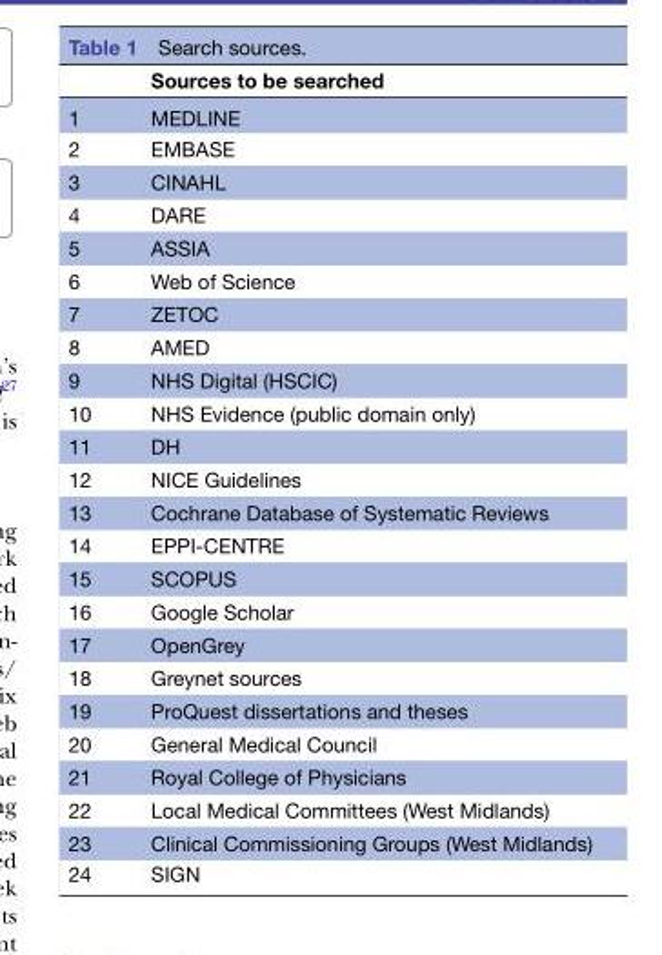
<table><thead><tr><td></td><td>Sources to be searched</td></tr></thead><tbody><tr><td>1</td><td>MEDLINE</td></tr><tr><td>2</td><td>EMBASE</td></tr><tr><td>3</td><td>CINAHL</td></tr><tr><td>4</td><td>DARE</td></tr><tr><td>5</td><td>ASSIA</td></tr><tr><td>6</td><td>Web of Science</td></tr><tr><td>7</td><td>ZETOC</td></tr><tr><td>8</td><td>AMED</td></tr><tr><td>9</td><td>NHS Digital (HSCIC)</td></tr><tr><td>10</td><td>NHS Evidence (public domain only)</td></tr><tr><td>11</td><td>DH</td></tr><tr><td>12</td><td>NICE Guidelines</td></tr><tr><td>13</td><td>Cochrane Database of Systematic Reviews</td></tr><tr><td>14</td><td>EPPI-CENTRE</td></tr><tr><td>15</td><td>SCOPUS</td></tr><tr><td>16</td><td>Google Scholar</td></tr><tr><td>17</td><td>OpenGrey</td></tr><tr><td>18</td><td>Greynet sources</td></tr><tr><td>19</td><td>ProQuest dissertations and theses</td></tr><tr><td>20</td><td>General Medical Council</td></tr><tr><td>21</td><td>Royal College of Physicians</td></tr><tr><td>22</td><td>Local Medical Committees (West Midlands)</td></tr><tr><td>23</td><td>Clinical Commissioning Groups (West Midlands)</td></tr><tr><td>24</td><td>SIGN</td></tr></tbody></table>